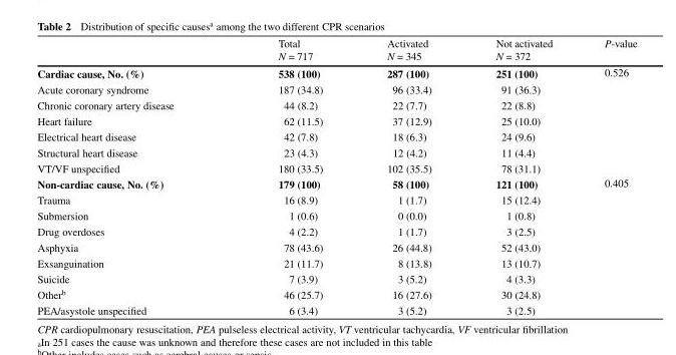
<table><thead><tr><td></td><td>Total N = 717</td><td>Activated N = 345</td><td>Not activated N = 372</td><td>P-value</td></tr></thead><tbody><tr><td>Cardiac cause, No. (%)</td><td>538 (100)</td><td>287 (100)</td><td>251 (100)</td><td rowspan="7">0.526</td></tr><tr><td>Acute coronary syndrome</td><td>187 (34.8)</td><td>96 (33.4)</td><td>91 (36.3)</td></tr><tr><td>Chronic coronary artery disease</td><td>44 (8.2)</td><td>22 (7.7)</td><td>22 (8.8)</td></tr><tr><td>Heart failure</td><td>62 (11.5)</td><td>37 (12.9)</td><td>25 (10.0)</td></tr><tr><td>Electrical heart disease</td><td>42 (7.8)</td><td>18 (6.3)</td><td>24 (9.6)</td></tr><tr><td>Structural heart disease</td><td>23 (4.3)</td><td>12 (4.2)</td><td>11 (4.4)</td></tr><tr><td>VT/VF unspecified</td><td>180 (33.5)</td><td>102 (35.5)</td><td>78 (31.1)</td></tr><tr><td>Non-cardiac cause, No. (%)</td><td>179 (100)</td><td>58 (100)</td><td>121 (100)</td><td rowspan="9">0.405</td></tr><tr><td>Trauma</td><td>16 (8.9)</td><td>1 (1.7)</td><td>15 (12.4)</td></tr><tr><td>Submersion</td><td>1 (0.6)</td><td>0 (0.0)</td><td>1 (0.8)</td></tr><tr><td>Drug overdoses</td><td>4 (2.2)</td><td>1 (1.7)</td><td>3 (2.5)</td></tr><tr><td>Asphyxia</td><td>78 (43.6)</td><td>26 (44.8)</td><td>52 (43.0)</td></tr><tr><td>Exsanguination</td><td>21 (11.7)</td><td>8 (13.8)</td><td>13 (10.7)</td></tr><tr><td>Suicide</td><td>7 (3.9)</td><td>3 (5.2)</td><td>4 (3.3)</td></tr><tr><td>Other<sup>b</sup></td><td>46 (25.7)</td><td>16 (27.6)</td><td>30 (24.8)</td></tr><tr><td>PEA/asystole unspecified</td><td>6 (3.4)</td><td>3 (5.2)</td><td>3 (2.5)</td></tr></tbody></table>